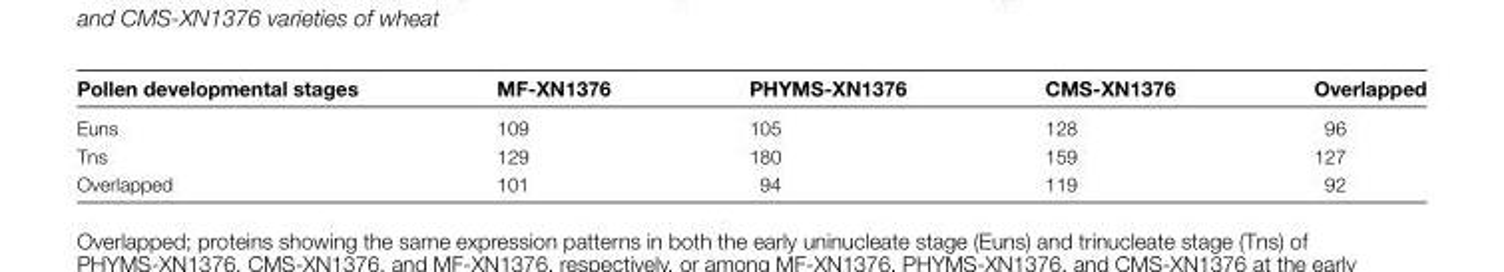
<table><thead><tr><td>Pollen developmental stages</td><td>MF-XN1376</td><td>PHYMS-XN1376</td><td>CMS-XN1376</td><td>Overlapped</td></tr></thead><tbody><tr><td>Euns</td><td>109</td><td>105</td><td>128</td><td>96</td></tr><tr><td>Tns</td><td>129</td><td>180</td><td>159</td><td>127</td></tr><tr><td>Overlapped</td><td>101</td><td>94</td><td>119</td><td>92</td></tr></tbody></table>